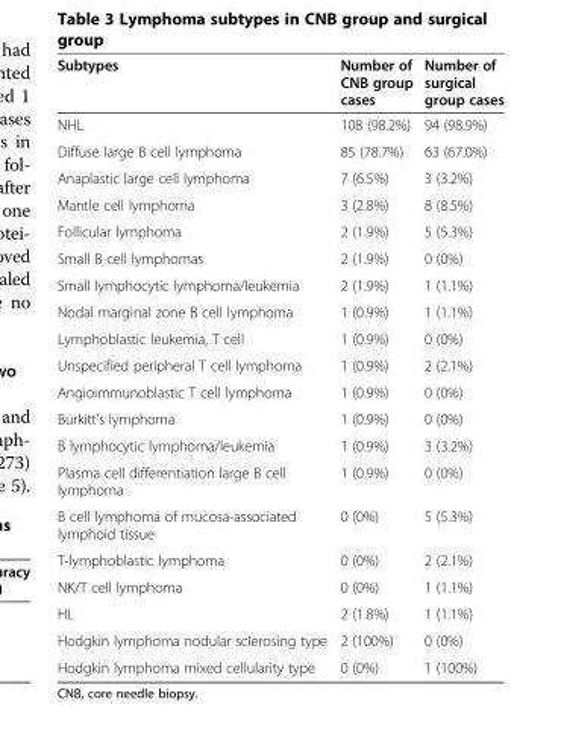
<table><thead><tr><td>Subtypes</td><td>Number of CNB group cases</td><td>Number of surgical group cases</td></tr></thead><tbody><tr><td>NHL</td><td>108 (98.2%)</td><td>94 (98.9%)</td></tr><tr><td>Diffuse large B cell lymphoma</td><td>85 (78.7%)</td><td>63 (67.0%)</td></tr><tr><td>Anaplastic large cell lymphoma</td><td>7 (6.5%)</td><td>3 (3.2%)</td></tr><tr><td>Mantle cell lymphoma</td><td>3 (2.8%)</td><td>8 (8.5%)</td></tr><tr><td>Follicular lymphoma</td><td>2 (1.9%)</td><td>5 (5.3%)</td></tr><tr><td>Small B cell lymphomas</td><td>2 (1.9%)</td><td>0 (0%)</td></tr><tr><td>Small lymphocytic lymphoma/leukemia</td><td>2 (1.9%)</td><td>1 (1.1%)</td></tr><tr><td>Nodal marginal zone B cell lymphoma</td><td>1 (0.9%)</td><td>1 (1.1%)</td></tr><tr><td>Lymphoblastic leukemia, T cell</td><td>1 (0.9%)</td><td>0 (0%)</td></tr><tr><td>Unspecified peripheral T cell lymphoma</td><td>1 (0.9%)</td><td>2 (2.1%)</td></tr><tr><td>Angioimmunoblastic T cell lymphoma</td><td>1 (0.9%)</td><td>0 (0%)</td></tr><tr><td>Burkitt’s lymphoma</td><td>1 (0.9%)</td><td>0 (0%)</td></tr><tr><td>B lymphocytic lymphoma/leukemia</td><td>1 (0.9%)</td><td>3 (3.2%)</td></tr><tr><td>Plasma cell differentiation large B cell lymphoma</td><td>1 (0.9%)</td><td>0 (0%)</td></tr><tr><td>B cell lymphoma of mucosa-associated lymphoid tissue</td><td>0 (0%)</td><td>5 (5.3%)</td></tr><tr><td>T-lymphoblastic lymphoma</td><td>0 (0%)</td><td>2 (2.1%)</td></tr><tr><td>NK/T cell lymphoma</td><td>0 (0%)</td><td>1 (1.1%)</td></tr><tr><td>HL</td><td>2 (1.8%)</td><td>1 (1.1%)</td></tr><tr><td>Hodgkin lymphoma nodular sclerosing type</td><td>2 (100%)</td><td>0 (0%)</td></tr><tr><td>Hodgkin lymphoma mixed cellularity type</td><td>0 (0%)</td><td>1 (100%)</td></tr></tbody></table>